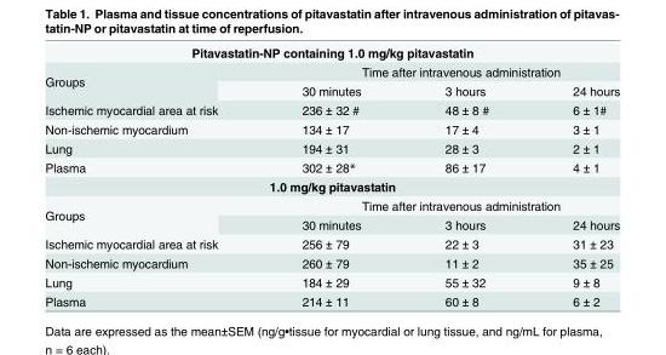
<table><tbody><tr><td colspan="4">Pitavastatin-NP containing 1.0 mg/kg pitavastatin</td></tr><tr><td rowspan="2">Groups</td><td colspan="3">Time after intravenous administration</td></tr><tr><td>30 minutes</td><td>3 hours</td><td>24 hours</td></tr><tr><td>Ischemic myocardial area at risk</td><td>236 ± 32 #</td><td>48 ± 8 #</td><td>6 ± 1#</td></tr><tr><td>Non-ischemic myocardium</td><td>134 ± 17</td><td>17 ± 4</td><td>3 ± 1</td></tr><tr><td>Lung</td><td>194 ± 31</td><td>28 ± 3</td><td>2 ± 1</td></tr><tr><td>Plasma</td><td>302 ± 28*</td><td>86 ± 17</td><td>4 ± 1</td></tr><tr><td colspan="4">1.0 mg/kg pitavastatin</td></tr><tr><td rowspan="2">Groups</td><td colspan="3">Time after intravenous administration</td></tr><tr><td>30 minutes</td><td>3 hours</td><td>24 hours</td></tr><tr><td>Ischemic myocardial area at risk</td><td>256 ± 79</td><td>22 ± 3</td><td>31 ± 23</td></tr><tr><td>Non-ischemic myocardium</td><td>260 ± 79</td><td>11 ± 2</td><td>35 ± 25</td></tr><tr><td>Lung</td><td>184 ± 29</td><td>55 ± 32</td><td>9 ± 8</td></tr><tr><td>Plasma</td><td>214 ± 11</td><td>60 ± 8</td><td>6 ± 2</td></tr></tbody></table>